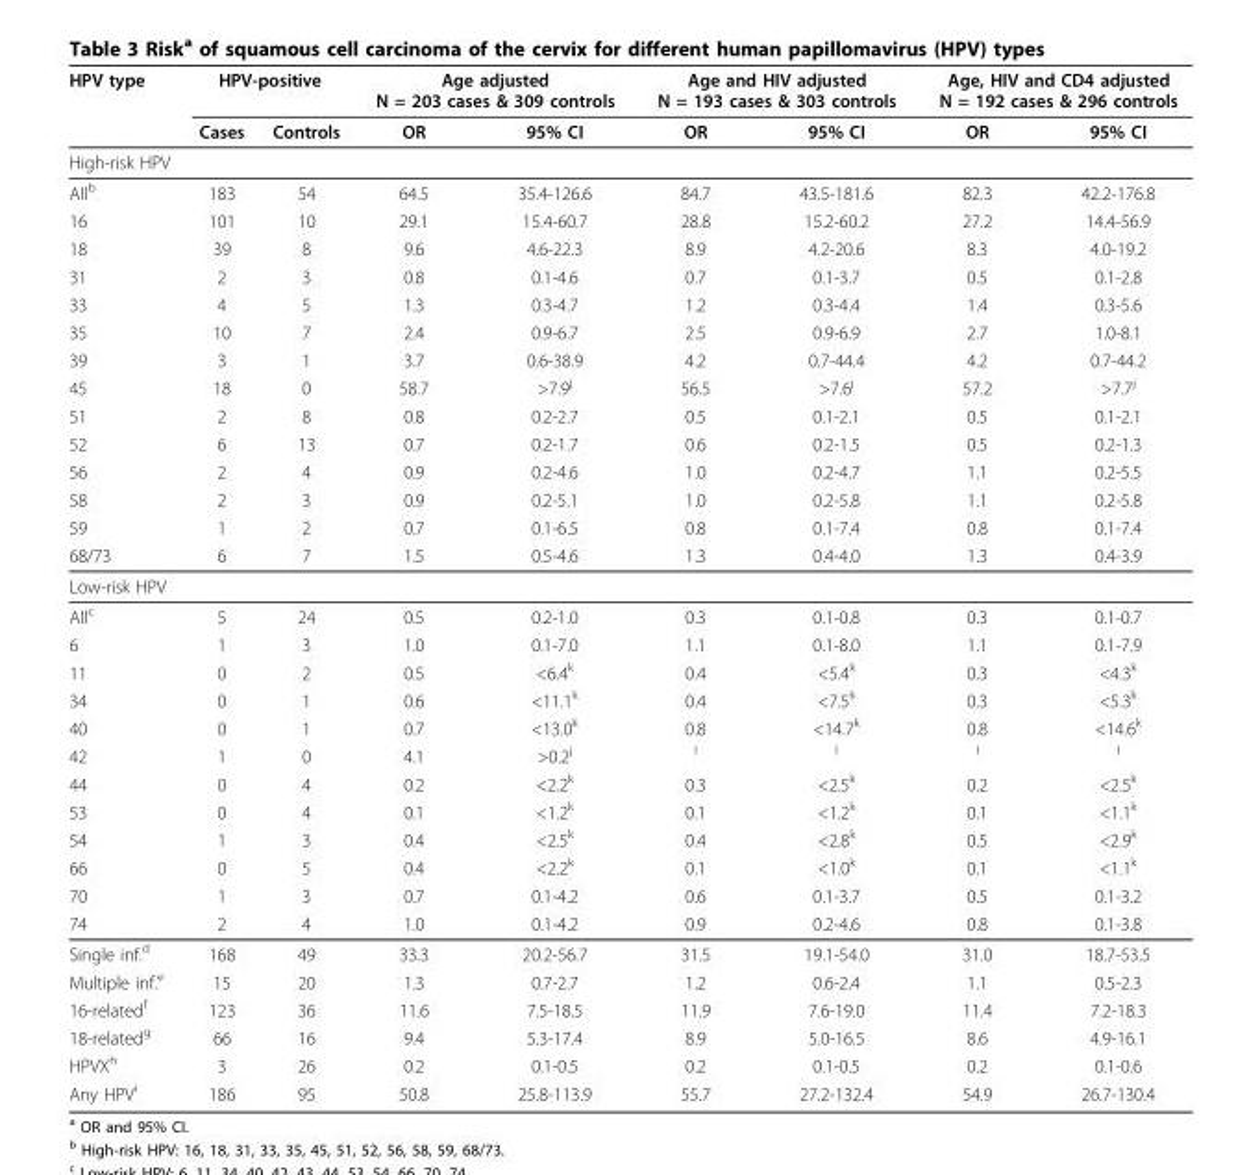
<table><thead><tr><td rowspan="2">HPV type</td><td colspan="2">HPV-positive</td><td colspan="2">Age adjusted N = 203 cases &amp; 309 controls</td><td colspan="2">Age and HIV adjusted N = 193 cases &amp; 303 controls</td><td colspan="2">Age, HIV and CD4 adjusted N = 192 cases &amp; 296 controls</td></tr><tr><td>Cases</td><td>Controls</td><td>OR</td><td>95% CI</td><td>OR</td><td>95% CI</td><td>OR</td><td>95% CI</td></tr></thead><tbody><tr><td colspan="9">High-risk HPV</td></tr><tr><td>All<sup>b</sup></td><td>183</td><td>54</td><td>64.5</td><td>35.4-126.6</td><td>84.7</td><td>43.5-181.6</td><td>82.3</td><td>42.2-176.8</td></tr><tr><td>16</td><td>101</td><td>10</td><td>29.1</td><td>15.4-60.7</td><td>28.8</td><td>15.2-60.2</td><td>27.2</td><td>14.4-56.9</td></tr><tr><td>18</td><td>39</td><td>8</td><td>9.6</td><td>4.6-22.3</td><td>8.9</td><td>4.2-20.6</td><td>8.3</td><td>4.0-19.2</td></tr><tr><td>31</td><td>2</td><td>3</td><td>0.8</td><td>0.1-4.6</td><td>0.7</td><td>0.1-3.7</td><td>0.5</td><td>0.1-2.8</td></tr><tr><td>33</td><td>4</td><td>5</td><td>1.3</td><td>0.3-4.7</td><td>1.2</td><td>0.3-4.4</td><td>1.4</td><td>0.3-5.6</td></tr><tr><td>35</td><td>10</td><td>7</td><td>2.4</td><td>0.9-6.7</td><td>2.5</td><td>0.9-6.9</td><td>2.7</td><td>1.0-8.1</td></tr><tr><td>39</td><td>3</td><td>1</td><td>3.7</td><td>0.6-38.9</td><td>4.2</td><td>0.7-44.4</td><td>4.2</td><td>0.7-44.2</td></tr><tr><td>45</td><td>18</td><td>0</td><td>58.7</td><td>&gt;7.9<sup>j</sup></td><td>56.5</td><td>&gt;7.6<sup>j</sup></td><td>57.2</td><td>&gt;7.7<sup>j</sup></td></tr><tr><td>51</td><td>2</td><td>8</td><td>0.8</td><td>0.2-2.7</td><td>0.5</td><td>0.1-2.1</td><td>0.5</td><td>0.1-2.1</td></tr><tr><td>52</td><td>6</td><td>13</td><td>0.7</td><td>0.2-1.7</td><td>0.6</td><td>0.2-1.5</td><td>0.5</td><td>0.2-1.3</td></tr><tr><td>56</td><td>2</td><td>4</td><td>0.9</td><td>0.2-4.6</td><td>1.0</td><td>0.2-4.7</td><td>1.1</td><td>0.2-5.5</td></tr><tr><td>58</td><td>2</td><td>3</td><td>0.9</td><td>0.2-5.1</td><td>1.0</td><td>0.2-5.8</td><td>1.1</td><td>0.2-5.8</td></tr><tr><td>59</td><td>1</td><td>2</td><td>0.7</td><td>0.1-6.5</td><td>0.8</td><td>0.1-7.4</td><td>0.8</td><td>0.1-7.4</td></tr><tr><td>68/73</td><td>6</td><td>7</td><td>1.5</td><td>0.5-4.6</td><td>1.3</td><td>0.4-4.0</td><td>1.3</td><td>0.4-3.9</td></tr><tr><td colspan="9">Low-risk HPV</td></tr><tr><td>All<sup>c</sup></td><td>5</td><td>24</td><td>0.5</td><td>0.2-1.0</td><td>0.3</td><td>0.1-0.8</td><td>0.3</td><td>0.1-0.7</td></tr><tr><td>6</td><td>1</td><td>3</td><td>1.0</td><td>0.1-7.0</td><td>1.1</td><td>0.1-8.0</td><td>1.1</td><td>0.1-7.9</td></tr><tr><td>11</td><td>0</td><td>2</td><td>0.5</td><td>&lt;6.4<sup>k</sup></td><td>0.4</td><td>&lt;5.4<sup>k</sup></td><td>0.3</td><td>&lt;4.3<sup>k</sup></td></tr><tr><td>34</td><td>0</td><td>1</td><td>0.6</td><td>&lt;11.1<sup>k</sup></td><td>0.4</td><td>&lt;7.5<sup>k</sup></td><td>0.3</td><td>&lt;5.3<sup>k</sup></td></tr><tr><td>40</td><td>0</td><td>1</td><td>0.7</td><td>&lt;13.0<sup>k</sup></td><td>0.8</td><td>&lt;14.7<sup>k</sup></td><td>0.8</td><td>&lt;14.6<sup>k</sup></td></tr><tr><td>42</td><td>1</td><td>0</td><td>4.1</td><td>&gt;0.2<sup>j</sup></td><td><sup>l</sup></td><td><sup>l</sup></td><td><sup>l</sup></td><td><sup>l</sup></td></tr><tr><td>44</td><td>0</td><td>4</td><td>0.2</td><td>&lt;2.2<sup>k</sup></td><td>0.3</td><td>&lt;2.5<sup>k</sup></td><td>0.2</td><td>&lt;2.5<sup>k</sup></td></tr><tr><td>53</td><td>0</td><td>4</td><td>0.1</td><td>&lt;1.2<sup>k</sup></td><td>0.1</td><td>&lt;1.2<sup>k</sup></td><td>0.1</td><td>&lt;1.1<sup>k</sup></td></tr><tr><td>54</td><td>1</td><td>3</td><td>0.4</td><td>&lt;2.5<sup>k</sup></td><td>0.4</td><td>&lt;2.8<sup>k</sup></td><td>0.5</td><td>&lt;2.9<sup>k</sup></td></tr><tr><td>66</td><td>0</td><td>5</td><td>0.4</td><td>&lt;2.2<sup>k</sup></td><td>0.1</td><td>&lt;1.0<sup>k</sup></td><td>0.1</td><td>&lt;1.1<sup>k</sup></td></tr><tr><td>70</td><td>1</td><td>3</td><td>0.7</td><td>0.1-4.2</td><td>0.6</td><td>0.1-3.7</td><td>0.5</td><td>0.1-3.2</td></tr><tr><td>74</td><td>2</td><td>4</td><td>1.0</td><td>0.1-4.2</td><td>0.9</td><td>0.2-4.6</td><td>0.8</td><td>0.1-3.8</td></tr><tr><td>Single inf.<sup>d</sup></td><td>168</td><td>49</td><td>33.3</td><td>20.2-56.7</td><td>31.5</td><td>19.1-54.0</td><td>31.0</td><td>18.7-53.5</td></tr><tr><td>Multiple inf.<sup>e</sup></td><td>15</td><td>20</td><td>1.3</td><td>0.7-2.7</td><td>1.2</td><td>0.6-2.4</td><td>1.1</td><td>0.5-2.3</td></tr><tr><td>16-related<sup>f</sup></td><td>123</td><td>36</td><td>11.6</td><td>7.5-18.5</td><td>11.9</td><td>7.6-19.0</td><td>11.4</td><td>7.2-18.3</td></tr><tr><td>18-related<sup>g</sup></td><td>66</td><td>16</td><td>9.4</td><td>5.3-17.4</td><td>8.9</td><td>5.0-16.5</td><td>8.6</td><td>4.9-16.1</td></tr><tr><td>HPVX<sup>h</sup></td><td>3</td><td>26</td><td>0.2</td><td>0.1-0.5</td><td>0.2</td><td>0.1-0.5</td><td>0.2</td><td>0.1-0.6</td></tr><tr><td>Any HPV<sup>i</sup></td><td>186</td><td>95</td><td>50.8</td><td>25.8-113.9</td><td>55.7</td><td>27.2-132.4</td><td>54.9</td><td>26.7-130.4</td></tr></tbody></table>